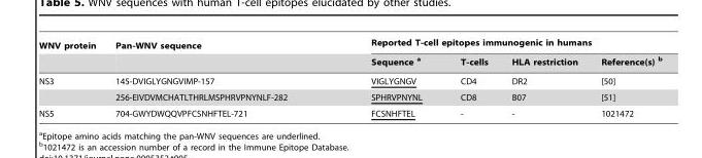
<table><thead><tr><td rowspan="2">WNV protein</td><td rowspan="2">Pan-WNV sequence</td><td colspan="4">Reported T-cell epitopes immunogenic in humans</td></tr><tr><td>Sequence a</td><td>T-cells</td><td>HLA restriction</td><td>Reference(s) b</td></tr></thead><tbody><tr><td rowspan="2">NS3</td><td>145-DVIGLYGNGVIMP-157</td><td>VIGLYGNGV</td><td>CD4</td><td>DR2</td><td>[50]</td></tr><tr><td>256-EIVDVMCHATLTHRLMSPHRVPNYNLF-282</td><td>SPHRVPNYNL</td><td>CD8</td><td>B07</td><td>[51]</td></tr><tr><td>NS5</td><td>704-GWYDWQQVPFCSNHFTEL-721</td><td>FCSNHFTEL</td><td>-</td><td>-</td><td>1021472</td></tr></tbody></table>